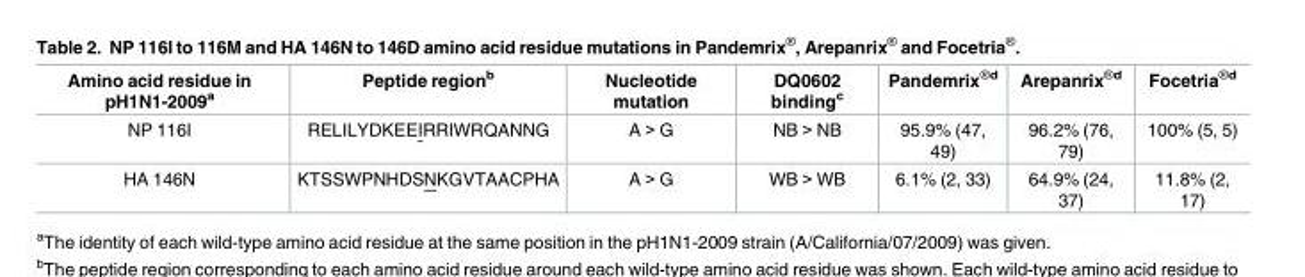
<table><thead><tr><td>Amino acid residue in pH1N1-2009<sup>a</sup></td><td>Peptide region<sup>b</sup></td><td>Nucleotide mutation</td><td>DQ0602 binding<sup>c</sup></td><td>Pandemrix<sup>®d</sup></td><td>Arepanrix<sup>®d</sup></td><td>Focetria<sup>®d</sup></td></tr></thead><tbody><tr><td>NP 116I</td><td>RELILYDKEEIRRIWRQANNG</td><td>A &gt; G</td><td>NB &gt; NB</td><td>95.9% (47, 49)</td><td>96.2% (76, 79)</td><td>100% (5, 5)</td></tr><tr><td>HA 146N</td><td>KTSSWPNHDSNKGVTAACPHA</td><td>A &gt; G</td><td>WB &gt; WB</td><td>6.1% (2, 33)</td><td>64.9% (24, 37)</td><td>11.8% (2, 17)</td></tr></tbody></table>